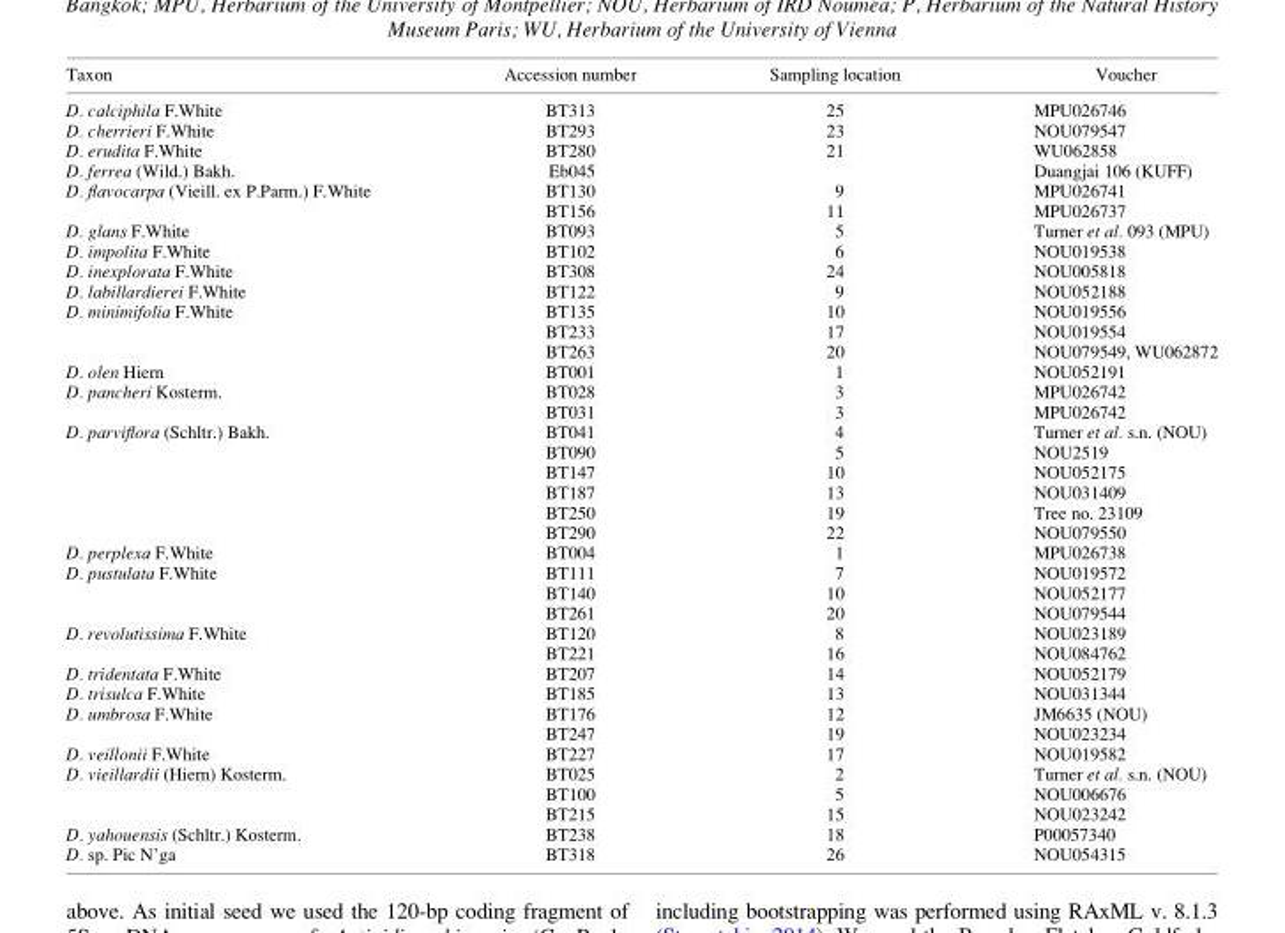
<table><thead><tr><td>Taxon</td><td>Accession number</td><td>Sampling location</td><td>Voucher</td></tr></thead><tbody><tr><td>D. calciphila F.White</td><td>BT313</td><td>25</td><td>MPU026746</td></tr><tr><td>D. cherrieri F.White</td><td>BT293</td><td>23</td><td>NOU079547</td></tr><tr><td>D. erudita F.White</td><td>BT280</td><td>21</td><td>WU062858</td></tr><tr><td>D. ferrea (Wild.) Bakh.</td><td>Eb045</td><td></td><td>Duangjai 106 (KUFF)</td></tr><tr><td rowspan="2">D. flavocarpa (Vieill. ex P.Parm.) F.White</td><td>BT130</td><td>9</td><td>MPU026741</td></tr><tr><td>BT156</td><td>11</td><td>MPU026737</td></tr><tr><td>D. glans F.White</td><td>BT093</td><td>5</td><td>Turner et al. 093 (MPU)</td></tr><tr><td>D. impolita F.White</td><td>BT102</td><td>6</td><td>NOU019538</td></tr><tr><td>D. inexplorata F.White</td><td>BT308</td><td>24</td><td>NOU005818</td></tr><tr><td>D. labillardierei F.White</td><td>BT122</td><td>9</td><td>NOU052188</td></tr><tr><td rowspan="3">D. minimifolia F.White</td><td>BT135</td><td>10</td><td>NOU019556</td></tr><tr><td>BT233</td><td>17</td><td>NOU019554</td></tr><tr><td>BT263</td><td>20</td><td>NOU079549, WU062872</td></tr><tr><td>D. olen Hiern</td><td>BT001</td><td>1</td><td>NOU052191</td></tr><tr><td rowspan="2">D. pancheri Kosterm.</td><td>BT028</td><td>3</td><td>MPU026742</td></tr><tr><td>BT031</td><td>3</td><td>MPU026742</td></tr><tr><td rowspan="6">D. parviflora (Schltr.) Bakh.</td><td>BT041</td><td>4</td><td>Turner et al. s.n. (NOU)</td></tr><tr><td>BT090</td><td>5</td><td>NOU2519</td></tr><tr><td>BT147</td><td>10</td><td>NOU052175</td></tr><tr><td>BT187</td><td>13</td><td>NOU031409</td></tr><tr><td>BT250</td><td>19</td><td>Tree no. 23109</td></tr><tr><td>BT290</td><td>22</td><td>NOU079550</td></tr><tr><td>D. perplexa F.White</td><td>BT004</td><td>1</td><td>MPU026738</td></tr><tr><td rowspan="3">D. pustulata F.White</td><td>BT111</td><td>7</td><td>NOU019572</td></tr><tr><td>BT140</td><td>10</td><td>NOU052177</td></tr><tr><td>BT261</td><td>20</td><td>NOU079544</td></tr><tr><td rowspan="2">D. revolutissima F.White</td><td>BT120</td><td>8</td><td>NOU023189</td></tr><tr><td>BT221</td><td>16</td><td>NOU084762</td></tr><tr><td>D. tridentata F.White</td><td>BT207</td><td>14</td><td>NOU052179</td></tr><tr><td>D. trisulca F.White</td><td>BT185</td><td>13</td><td>NOU031344</td></tr><tr><td rowspan="2">D. umbrosa F.White</td><td>BT176</td><td>12</td><td>JM6635 (NOU)</td></tr><tr><td>BT247</td><td>19</td><td>NOU023234</td></tr><tr><td>D. veillonii F.White</td><td>BT227</td><td>17</td><td>NOU019582</td></tr><tr><td rowspan="3">D. vieillardii (Hiern) Kosterm.</td><td>BT025</td><td>2</td><td>Turner et al. s.n. (NOU)</td></tr><tr><td>BT100</td><td>5</td><td>NOU006676</td></tr><tr><td>BT215</td><td>15</td><td>NOU023242</td></tr><tr><td>D. yahouensis (Schltr.) Kosterm.</td><td>BT238</td><td>18</td><td>P00057340</td></tr><tr><td>D. sp. Pic N’ga</td><td>BT318</td><td>26</td><td>NOU054315</td></tr></tbody></table>